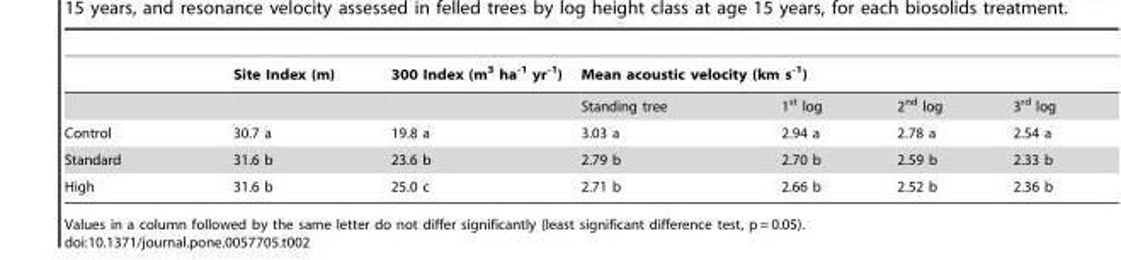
<table><thead><tr><td rowspan="2"></td><td rowspan="2">Site Index (m)</td><td rowspan="2">300 Index (m<sup>3</sup> ha<sup>-1</sup> yr<sup>-1</sup>)</td><td colspan="4">Mean acoustic velocity (km s<sup>-1</sup>)</td></tr><tr><td>Standing tree</td><td>1<sup>st</sup> log</td><td>2<sup>nd</sup> log</td><td>3<sup>rd</sup> log</td></tr></thead><tbody><tr><td>Control</td><td>30.7 a</td><td>19.8 a</td><td>3.03 a</td><td>2.94 a</td><td>2.78 a</td><td>2.54 a</td></tr><tr><td>Standard</td><td>31.6 b</td><td>23.6 b</td><td>2.79 b</td><td>2.70 b</td><td>2.59 b</td><td>2.33 b</td></tr><tr><td>High</td><td>31.6 b</td><td>25.0 c</td><td>2.71 b</td><td>2.66 b</td><td>2.52 b</td><td>2.36 b</td></tr></tbody></table>